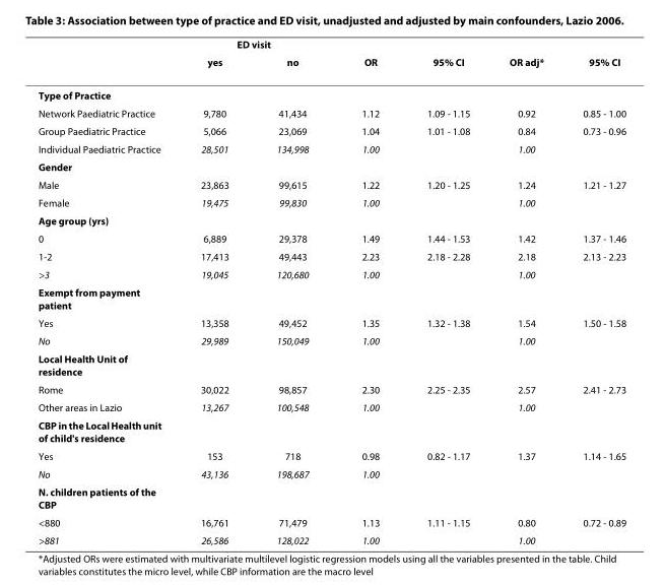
<table><thead><tr><td rowspan="2"></td><td colspan="2">ED visit</td><td rowspan="2">OR</td><td rowspan="2">95% CI</td><td rowspan="2">OR adj*</td><td rowspan="2">95% CI</td></tr><tr><td>yes</td><td>no</td></tr></thead><tbody><tr><td colspan="7">Type of Practice</td></tr><tr><td>Network Paediatric Practice</td><td>9,780</td><td>41,434</td><td>1.12</td><td>1.09 - 1.15</td><td>0.92</td><td>0.85 - 1.00</td></tr><tr><td>Group Paediatric Practice</td><td>5,066</td><td>23,069</td><td>1.04</td><td>1.01 - 1.08</td><td>0.84</td><td>0.73 - 0.96</td></tr><tr><td>Individual Paediatric Practice</td><td>28,501</td><td>134,998</td><td>1.00</td><td></td><td>1.00</td><td></td></tr><tr><td colspan="7">Gender</td></tr><tr><td>Male</td><td>23,863</td><td>99,615</td><td>1.22</td><td>1.20 - 1.25</td><td>1.24</td><td>1.21 - 1.27</td></tr><tr><td>Female</td><td>19,475</td><td>99,830</td><td>1.00</td><td></td><td>1.00</td><td></td></tr><tr><td colspan="7">Age group (yrs)</td></tr><tr><td>0</td><td>6,889</td><td>29,378</td><td>1.49</td><td>1.44 - 1.53</td><td>1.42</td><td>1.37 - 1.46</td></tr><tr><td>1-2</td><td>17,413</td><td>49,443</td><td>2.23</td><td>2.18 - 2.28</td><td>2.18</td><td>2.13 - 2.23</td></tr><tr><td>&gt;3</td><td>19,045</td><td>120,680</td><td>1.00</td><td></td><td>1.00</td><td></td></tr><tr><td colspan="7">Exempt from payment patient</td></tr><tr><td>Yes</td><td>13,358</td><td>49,452</td><td>1.35</td><td>1.32 - 1.38</td><td>1.54</td><td>1.50 - 1.58</td></tr><tr><td>No</td><td>29,989</td><td>150,049</td><td>1.00</td><td></td><td>1.00</td><td></td></tr><tr><td colspan="7">Local Health Unit of residence</td></tr><tr><td>Rome</td><td>30,022</td><td>98,857</td><td>2.30</td><td>2.25 - 2.35</td><td>2.57</td><td>2.41 - 2.73</td></tr><tr><td>Other areas in Lazio</td><td>13,267</td><td>100,548</td><td>1.00</td><td></td><td>1.00</td><td></td></tr><tr><td colspan="7">CBP in the Local Health unit of child&#x27;s residence</td></tr><tr><td>Yes</td><td>153</td><td>718</td><td>0.98</td><td>0.82 - 1.17</td><td>1.37</td><td>1.14 - 1.65</td></tr><tr><td>No</td><td>43,136</td><td>198,687</td><td>1.00</td><td></td><td></td><td></td></tr><tr><td colspan="7">N. children patients of the CBP</td></tr><tr><td>&lt;880</td><td>16,761</td><td>71,479</td><td>1.13</td><td>1.11 - 1.15</td><td>0.80</td><td>0.72 - 0.89</td></tr><tr><td>&gt;881</td><td>26,586</td><td>128,022</td><td>1.00</td><td></td><td>1.00</td><td></td></tr></tbody></table>